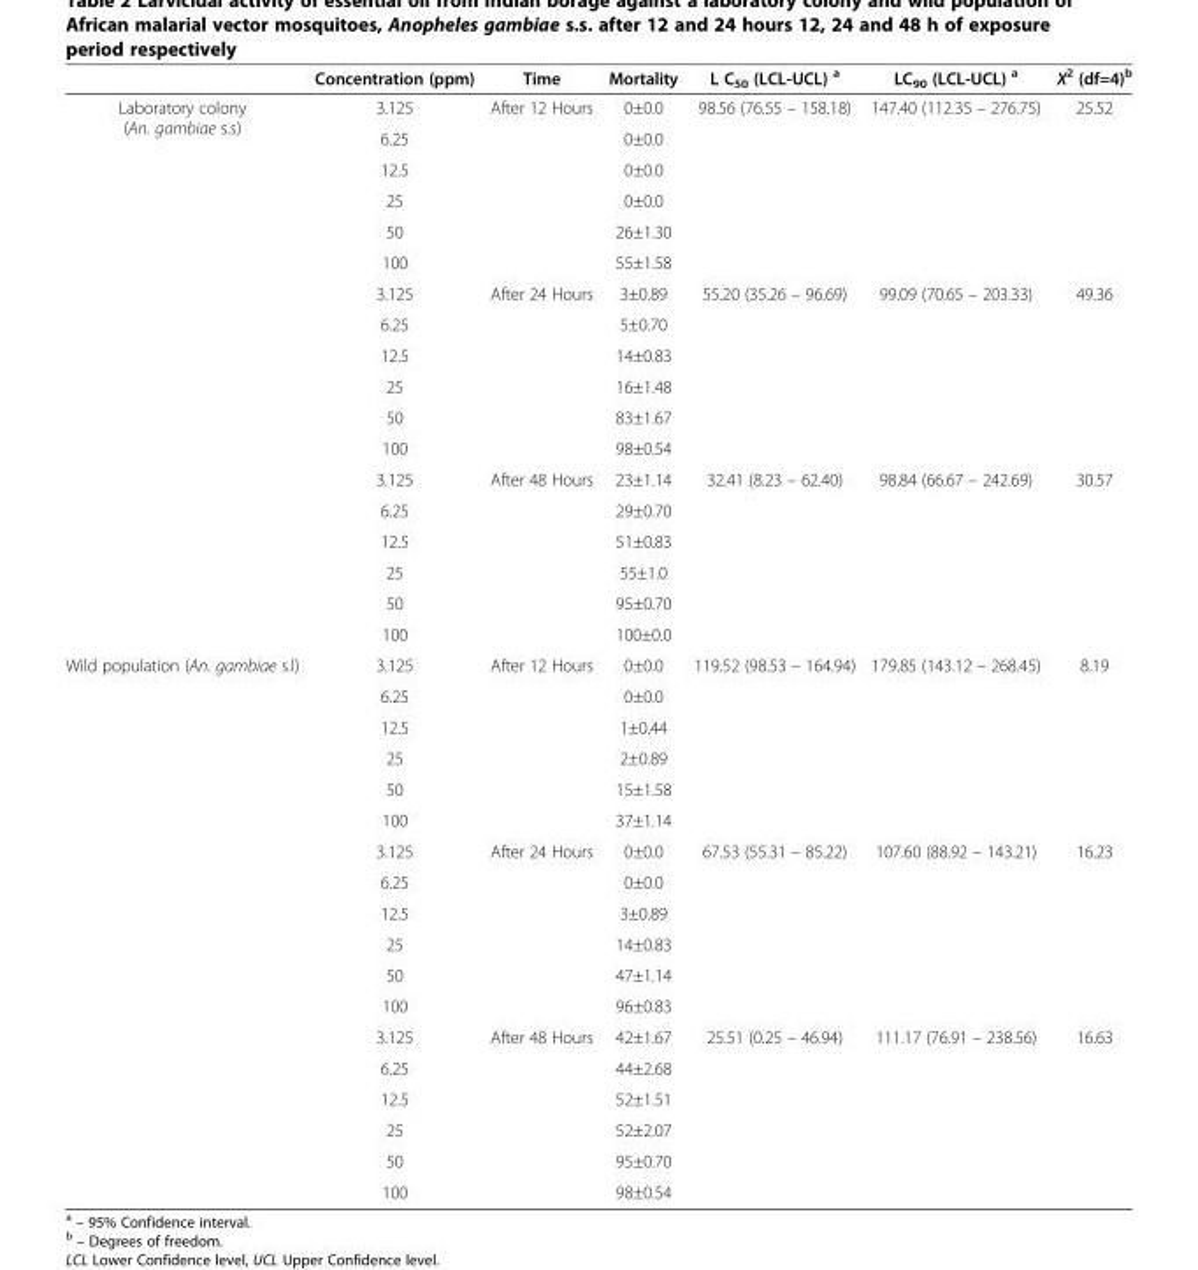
<table><thead><tr><td></td><td>Concentration (ppm)</td><td>Time</td><td>Mortality</td><td>L C<sub>50</sub> (LCL-UCL) <sup>a</sup></td><td>LC<sub>90</sub> (LCL-UCL) <sup>a</sup></td><td>X<sup>2</sup> (df=4)<sup>b</sup></td></tr></thead><tbody><tr><td rowspan="18">Laboratory colony (An. gambiae s.s)</td><td>3.125</td><td rowspan="6">After 12 Hours</td><td>0±0.0</td><td rowspan="6">98.56 (76.55 – 158.18)</td><td rowspan="6">147.40 (112.35 – 276.75)</td><td rowspan="6">25.52</td></tr><tr><td>6.25</td><td>0±0.0</td></tr><tr><td>12.5</td><td>0±0.0</td></tr><tr><td>25</td><td>0±0.0</td></tr><tr><td>50</td><td>26±1.30</td></tr><tr><td>100</td><td>55±1.58</td></tr><tr><td>3.125</td><td rowspan="6">After 24 Hours</td><td>3±0.89</td><td rowspan="6">55.20 (35.26 – 96.69)</td><td rowspan="6">99.09 (70.65 – 203.33)</td><td rowspan="6">49.36</td></tr><tr><td>6.25</td><td>5±0.70</td></tr><tr><td>12.5</td><td>14±0.83</td></tr><tr><td>25</td><td>16±1.48</td></tr><tr><td>50</td><td>83±1.67</td></tr><tr><td>100</td><td>98±0.54</td></tr><tr><td>3.125</td><td rowspan="6">After 48 Hours</td><td>23±1.14</td><td rowspan="6">32.41 (8.23 – 62.40)</td><td rowspan="6">98.84 (66.67 – 242.69)</td><td rowspan="6">30.57</td></tr><tr><td>6.25</td><td>29±0.70</td></tr><tr><td>12.5</td><td>51±0.83</td></tr><tr><td>25</td><td>55±1.0</td></tr><tr><td>50</td><td>95±0.70</td></tr><tr><td>100</td><td>100±0.0</td></tr><tr><td rowspan="18">Wild population (An. gambiae s.l)</td><td>3.125</td><td rowspan="6">After 12 Hours</td><td>0±0.0</td><td rowspan="6">119.52 (98.53 – 164.94)</td><td rowspan="6">179.85 (143.12 – 268.45)</td><td rowspan="6">8.19</td></tr><tr><td>6.25</td><td>0±0.0</td></tr><tr><td>12.5</td><td>1±0.44</td></tr><tr><td>25</td><td>2±0.89</td></tr><tr><td>50</td><td>15±1.58</td></tr><tr><td>100</td><td>37±1.14</td></tr><tr><td>3.125</td><td rowspan="6">After 24 Hours</td><td>0±0.0</td><td rowspan="6">67.53 (55.31 – 85.22)</td><td rowspan="6">107.60 (88.92 – 143.21)</td><td rowspan="6">16.23</td></tr><tr><td>6.25</td><td>0±0.0</td></tr><tr><td>12.5</td><td>3±0.89</td></tr><tr><td>25</td><td>14±0.83</td></tr><tr><td>50</td><td>47±1.14</td></tr><tr><td>100</td><td>96±0.83</td></tr><tr><td>3.125</td><td rowspan="6">After 48 Hours</td><td>42±1.67</td><td rowspan="6">25.51 (0.25 – 46.94)</td><td rowspan="6">111.17 (76.91 – 238.56)</td><td rowspan="6">16.63</td></tr><tr><td>6.25</td><td>44±2.68</td></tr><tr><td>12.5</td><td>52±1.51</td></tr><tr><td>25</td><td>52±2.07</td></tr><tr><td>50</td><td>95±0.70</td></tr><tr><td>100</td><td>98±0.54</td></tr></tbody></table>